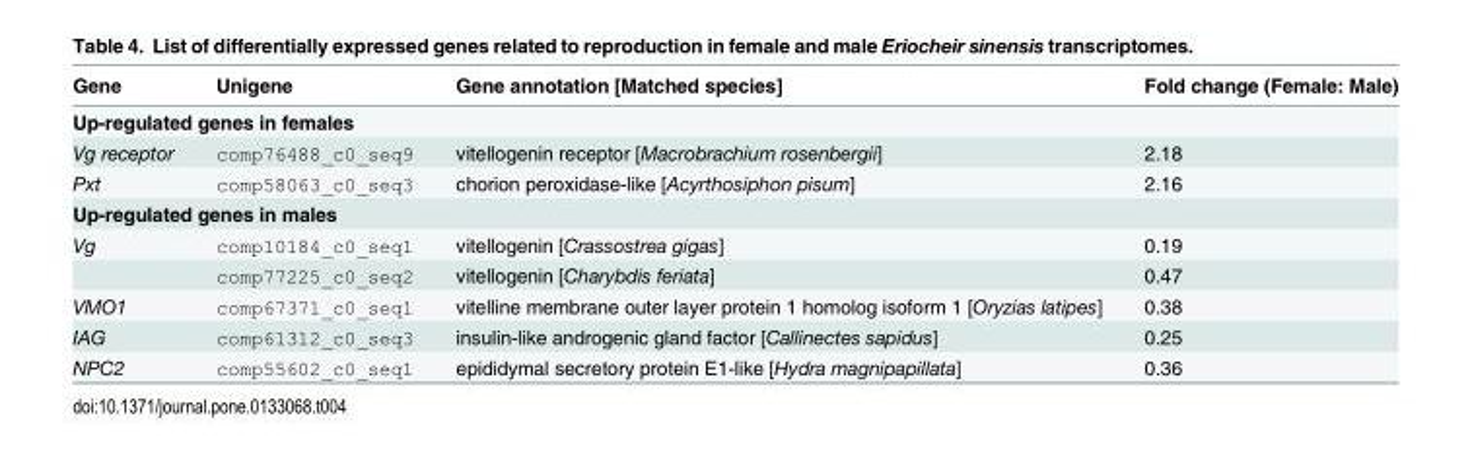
<table><thead><tr><td>Gene</td><td>Unigene</td><td>Gene annotation [Matched species]</td><td>Fold change (Female: Male)</td></tr></thead><tbody><tr><td colspan="4">Up-regulated genes in females</td></tr><tr><td>Vg receptor</td><td>comp76488_c0_seq9</td><td>vitellogenin receptor [Macrobrachium rosenbergii]</td><td>2.18</td></tr><tr><td>Pxt</td><td>comp58063_c0_seq3</td><td>chorion peroxidase-like [Acyrthosiphon pisum]</td><td>2.16</td></tr><tr><td colspan="4">Up-regulated genes in males</td></tr><tr><td rowspan="2">Vg</td><td>comp10184_c0_seq1</td><td>vitellogenin [Crassostrea gigas]</td><td>0.19</td></tr><tr><td>comp77225_c0_seq2</td><td>vitellogenin [Charybdis feriata]</td><td>0.47</td></tr><tr><td>VMO1</td><td>comp67371_c0_seq1</td><td>vitelline membrane outer layer protein 1 homolog isoform 1 [Oryzias latipes]</td><td>0.38</td></tr><tr><td>IAG</td><td>comp61312_c0_seq3</td><td>insulin-like androgenic gland factor [Callinectes sapidus]</td><td>0.25</td></tr><tr><td>NPC2</td><td>comp55602_c0_seq1</td><td>epididymal secretory protein E1-like [Hydra magnipapillata]</td><td>0.36</td></tr></tbody></table>